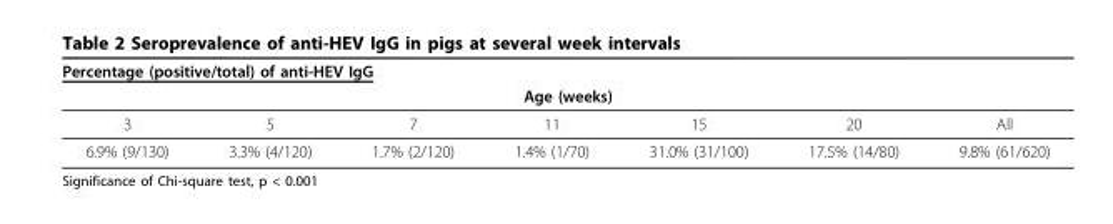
<table><thead><tr><td rowspan="2" colspan="7">Percentage (positive/total) of anti-HEV IgG Age (weeks)</td></tr><tr></tr><tr><td>3</td><td>5</td><td>7</td><td>11</td><td>15</td><td>20</td><td>All</td></tr></thead><tbody><tr><td>6.9% (9/130)</td><td>3.3% (4/120)</td><td>1.7% (2/120)</td><td>1.4% (1/70)</td><td>31.0% (31/100)</td><td>17.5% (14/80)</td><td>9.8% (61/620)</td></tr></tbody></table>